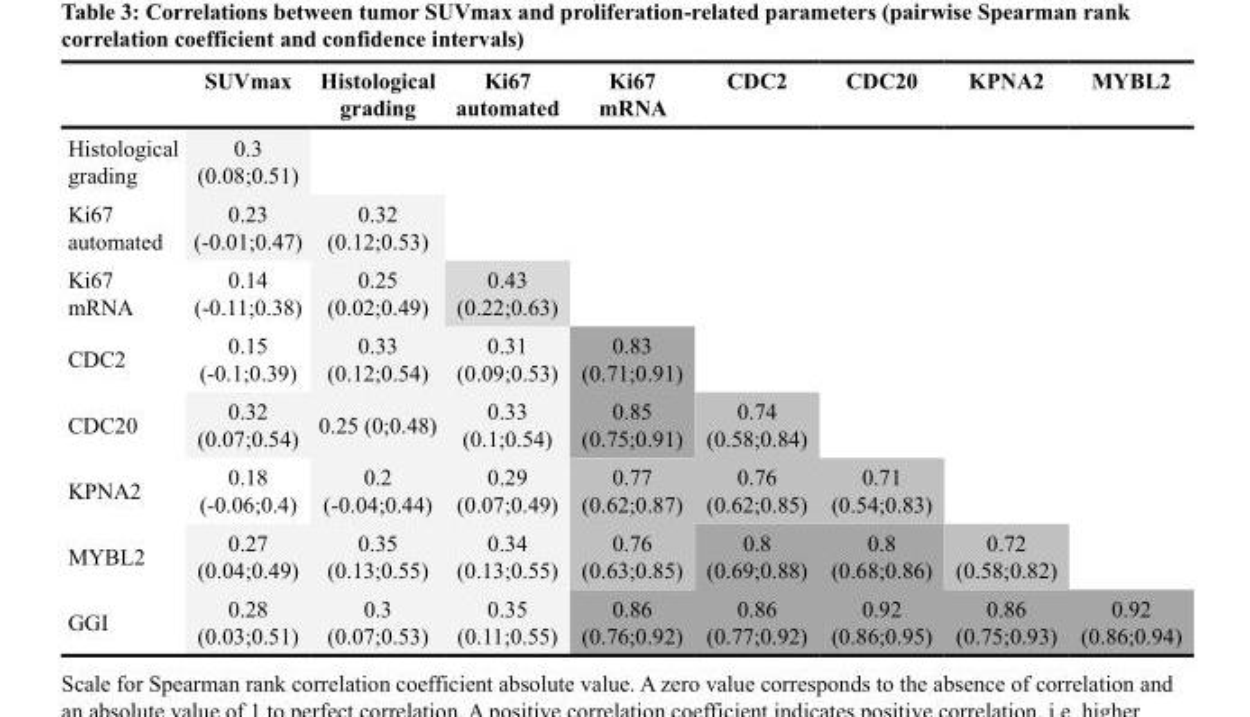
<table><thead><tr><td></td><td>SUVmax</td><td>Histological grading</td><td>Ki67 automated</td><td>Ki67 mRNA</td><td>CDC2</td><td>CDC20</td><td>KPNA2</td><td>MYBL2</td></tr></thead><tbody><tr><td>Histological grading</td><td>0.3 (0.08;0.51)</td><td></td><td></td><td></td><td></td><td></td><td></td><td></td></tr><tr><td>Ki67 automated</td><td>0.23 (-0.01;0.47)</td><td>0.32 (0.12;0.53)</td><td></td><td></td><td></td><td></td><td></td><td></td></tr><tr><td>Ki67 mRNA</td><td>0.14 (-0.11;0.38)</td><td>0.25 (0.02;0.49)</td><td>0.43 (0.22;0.63)</td><td></td><td></td><td></td><td></td><td></td></tr><tr><td>CDC2</td><td>0.15 (-0.1;0.39)</td><td>0.33 (0.12;0.54)</td><td>0.31 (0.09;0.53)</td><td>0.83 (0.71;0.91)</td><td></td><td></td><td></td><td></td></tr><tr><td>CDC20</td><td>0.32 (0.07;0.54)</td><td>0.25 (0;0.48)</td><td>0.33 (0.1;0.54)</td><td>0.85 (0.75;0.91)</td><td>0.74 (0.58;0.84)</td><td></td><td></td><td></td></tr><tr><td>KPNA2</td><td>0.18 (-0.06;0.4)</td><td>0.2 (-0.04;0.44)</td><td>0.29 (0.07;0.49)</td><td>0.77 (0.62;0.87)</td><td>0.76 (0.62;0.85)</td><td>0.71 (0.54;0.83)</td><td></td><td></td></tr><tr><td>MYBL2</td><td>0.27 (0.04;0.49)</td><td>0.35 (0.13;0.55)</td><td>0.34 (0.13;0.55)</td><td>0.76 (0.63;0.85)</td><td>0.8 (0.69;0.88)</td><td>0.8 (0.68;0.86)</td><td>0.72 (0.58;0.82)</td><td></td></tr><tr><td>GGI</td><td>0.28 (0.03;0.51)</td><td>0.3 (0.07;0.53)</td><td>0.35 (0.11;0.55)</td><td>0.86 (0.76;0.92)</td><td>0.86 (0.77;0.92)</td><td>0.92 (0.86;0.95)</td><td>0.86 (0.75;0.93)</td><td>0.92 (0.86;0.94)</td></tr></tbody></table>